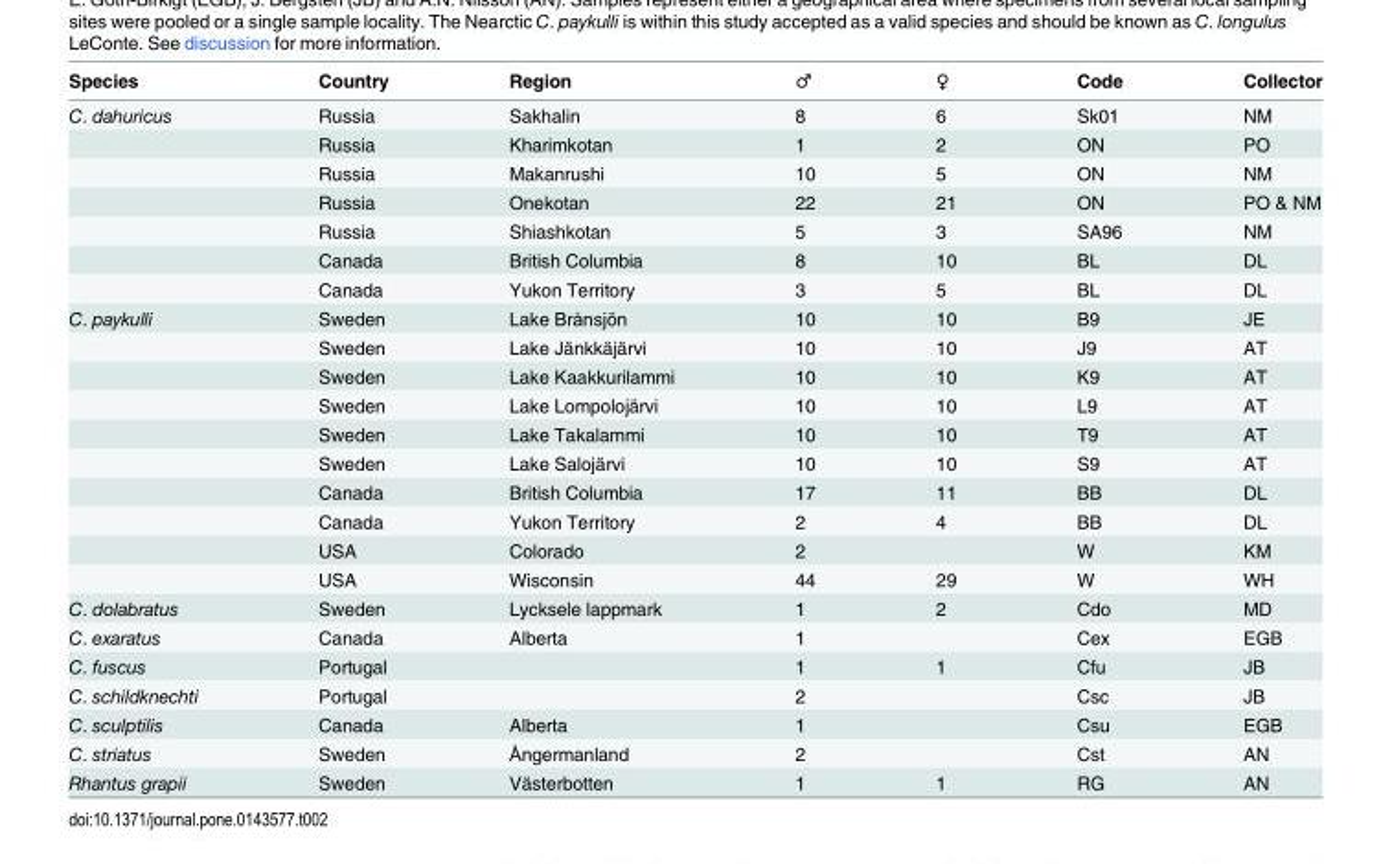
<table><thead><tr><td>Species</td><td>Country</td><td>Region</td><td>♂</td><td>♀</td><td>Code</td><td>Collector</td></tr></thead><tbody><tr><td rowspan="7">C. dahuricus</td><td>Russia</td><td>Sakhalin</td><td>8</td><td>6</td><td>Sk01</td><td>NM</td></tr><tr><td>Russia</td><td>Kharimkotan</td><td>1</td><td>2</td><td>ON</td><td>PO</td></tr><tr><td>Russia</td><td>Makanrushi</td><td>10</td><td>5</td><td>ON</td><td>NM</td></tr><tr><td>Russia</td><td>Onekotan</td><td>22</td><td>21</td><td>ON</td><td>PO &amp; NM</td></tr><tr><td>Russia</td><td>Shiashkotan</td><td>5</td><td>3</td><td>SA96</td><td>NM</td></tr><tr><td>Canada</td><td>British Columbia</td><td>8</td><td>10</td><td>BL</td><td>DL</td></tr><tr><td>Canada</td><td>Yukon Territory</td><td>3</td><td>5</td><td>BL</td><td>DL</td></tr><tr><td rowspan="10">C. paykulli</td><td>Sweden</td><td>Lake Brånsjön</td><td>10</td><td>10</td><td>B9</td><td>JE</td></tr><tr><td>Sweden</td><td>Lake Jänkkäjärvi</td><td>10</td><td>10</td><td>J9</td><td>AT</td></tr><tr><td>Sweden</td><td>Lake Kaakkurilammi</td><td>10</td><td>10</td><td>K9</td><td>AT</td></tr><tr><td>Sweden</td><td>Lake Lompolojärvi</td><td>10</td><td>10</td><td>L9</td><td>AT</td></tr><tr><td>Sweden</td><td>Lake Takalammi</td><td>10</td><td>10</td><td>T9</td><td>AT</td></tr><tr><td>Sweden</td><td>Lake Salojärvi</td><td>10</td><td>10</td><td>S9</td><td>AT</td></tr><tr><td>Canada</td><td>British Columbia</td><td>17</td><td>11</td><td>BB</td><td>DL</td></tr><tr><td>Canada</td><td>Yukon Territory</td><td>2</td><td>4</td><td>BB</td><td>DL</td></tr><tr><td>USA</td><td>Colorado</td><td>2</td><td></td><td>W</td><td>KM</td></tr><tr><td>USA</td><td>Wisconsin</td><td>44</td><td>29</td><td>W</td><td>WH</td></tr><tr><td>C. dolabratus</td><td>Sweden</td><td>Lycksele lappmark</td><td>1</td><td>2</td><td>Cdo</td><td>MD</td></tr><tr><td>C. exaratus</td><td>Canada</td><td>Alberta</td><td>1</td><td></td><td>Cex</td><td>EGB</td></tr><tr><td>C. fuscus</td><td>Portugal</td><td></td><td>1</td><td>1</td><td>Cfu</td><td>JB</td></tr><tr><td>C. schildknechti</td><td>Portugal</td><td></td><td>2</td><td></td><td>Csc</td><td>JB</td></tr><tr><td>C. sculptilis</td><td>Canada</td><td>Alberta</td><td>1</td><td></td><td>Csu</td><td>EGB</td></tr><tr><td>C. striatus</td><td>Sweden</td><td>Ångermanland</td><td>2</td><td></td><td>Cst</td><td>AN</td></tr><tr><td>Rhantus grapii</td><td>Sweden</td><td>Västerbotten</td><td>1</td><td>1</td><td>RG</td><td>AN</td></tr></tbody></table>